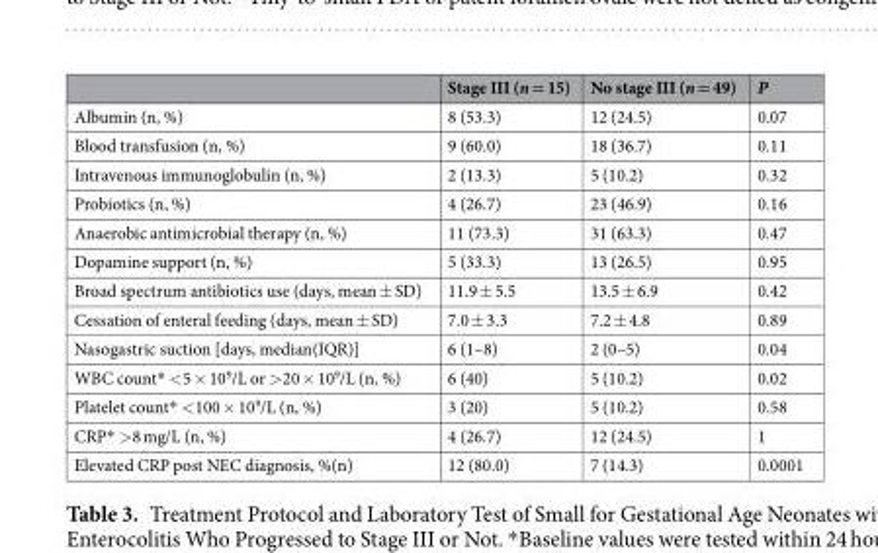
<table><thead><tr><td></td><td>Stage III (n = 15)</td><td>No stage III (n = 49)</td><td>P</td></tr></thead><tbody><tr><td>Albumin (n, %)</td><td>8 (53.3)</td><td>12 (24.5)</td><td>0.07</td></tr><tr><td>Blood transfusion (n, %)</td><td>9 (60.0)</td><td>18 (36.7)</td><td>0.11</td></tr><tr><td>Intravenous immunoglobulin (n, %)</td><td>2 (13.3)</td><td>5 (10.2)</td><td>0.32</td></tr><tr><td>Probiotics (n, %)</td><td>4 (26.7)</td><td>23 (46.9)</td><td>0.16</td></tr><tr><td>Anaerobic antimicrobial therapy (n, %)</td><td>11 (73.3)</td><td>31 (63.3)</td><td>0.47</td></tr><tr><td>Dopamine support (n, %)</td><td>5 (33.3)</td><td>13 (26.5)</td><td>0.95</td></tr><tr><td>Broad spectrum antibiotics use (days, mean ± SD)</td><td>11.9 ± 5.5</td><td>13.5 ± 6.9</td><td>0.42</td></tr><tr><td>Cessation of enteral feeding (days, mean ± SD)</td><td>7.0 ± 3.3</td><td>7.2 ± 4.8</td><td>0.89</td></tr><tr><td>Nasogastric suction [days, median(IQR)]</td><td>6 (1–8)</td><td>2 (0–5)</td><td>0.04</td></tr><tr><td>WBC count* &lt;5 × 10<sup>9</sup>/L or &gt;20 × 10<sup>9</sup>/L (n, %)</td><td>6 (40)</td><td>5 (10.2)</td><td>0.02</td></tr><tr><td>Platelet count* &lt;100 × 10<sup>9</sup>/L (n, %)</td><td>3 (20)</td><td>5 (10.2)</td><td>0.58</td></tr><tr><td>CRP* &gt;8 mg/L (n, %)</td><td>4 (26.7)</td><td>12 (24.5)</td><td>1</td></tr><tr><td>Elevated CRP post NEC diagnosis, %(n)</td><td>12 (80.0)</td><td>7 (14.3)</td><td>0.0001</td></tr></tbody></table>